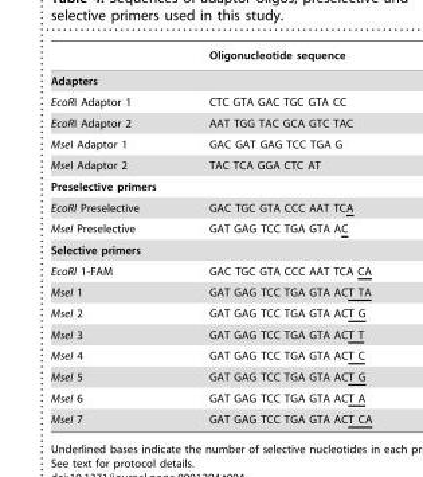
<table><thead><tr><td></td><td>Oligonucleotide sequence</td></tr></thead><tbody><tr><td colspan="2">Adapters</td></tr><tr><td>EcoRI Adaptor 1</td><td>CTC GTA GAC TGC GTA CC</td></tr><tr><td>EcoRI Adaptor 2</td><td>AAT TGG TAC GCA GTC TAC</td></tr><tr><td>MseI Adaptor 1</td><td>GAC GAT GAG TCC TGA G</td></tr><tr><td>MseI Adaptor 2</td><td>TAC TCA GGA CTC AT</td></tr><tr><td colspan="2">Preselective primers</td></tr><tr><td>EcoRI Preselective</td><td>GAC TGC GTA CCC AAT TCA</td></tr><tr><td>MseI Preselective</td><td>GAT GAG TCC TGA GTA AC</td></tr><tr><td colspan="2">Selective primers</td></tr><tr><td>EcoRI 1-FAM</td><td>GAC TGC GTA CCC AAT TCA CA</td></tr><tr><td>MseI 1</td><td>GAT GAG TCC TGA GTA ACT TA</td></tr><tr><td>MseI 2</td><td>GAT GAG TCC TGA GTA ACT G</td></tr><tr><td>MseI 3</td><td>GAT GAG TCC TGA GTA ACT T</td></tr><tr><td>MseI 4</td><td>GAT GAG TCC TGA GTA ACT C</td></tr><tr><td>MseI 5</td><td>GAT GAG TCC TGA GTA ACT G</td></tr><tr><td>MseI 6</td><td>GAT GAG TCC TGA GTA ACT A</td></tr><tr><td>MseI 7</td><td>GAT GAG TCC TGA GTA ACT CA</td></tr></tbody></table>